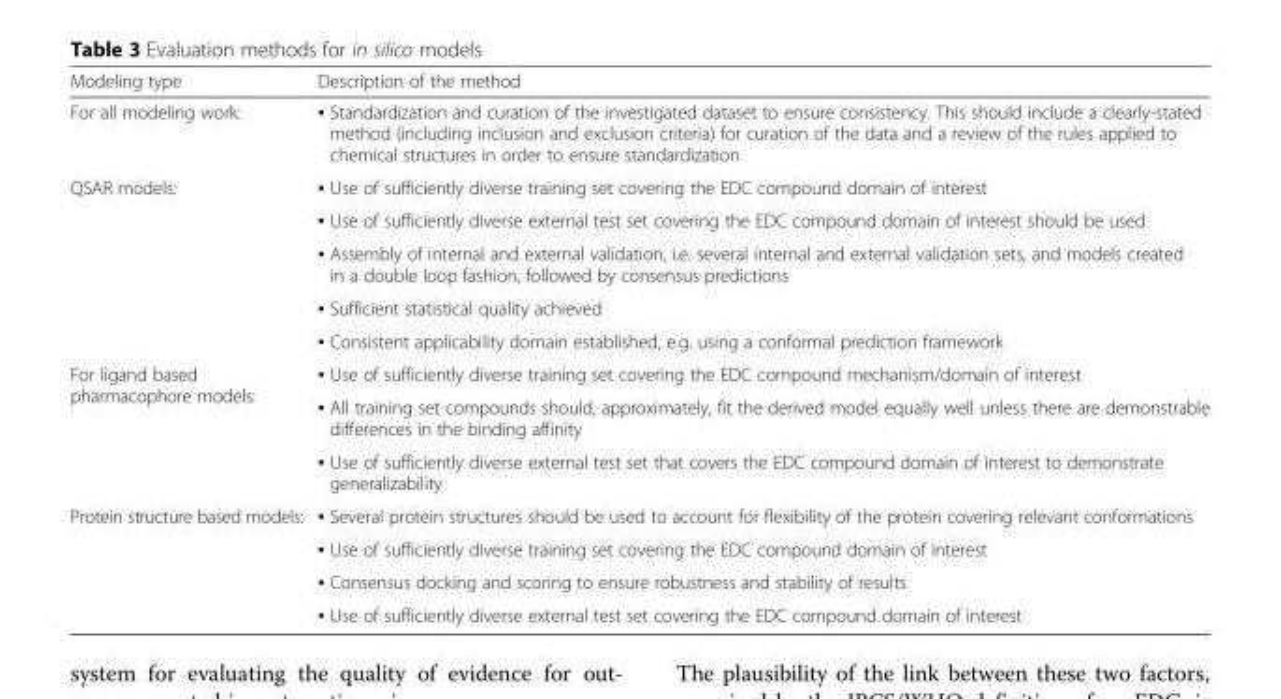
<table><thead><tr><td>Modeling type</td><td>Description of the method</td></tr></thead><tbody><tr><td>For all modeling work:</td><td>▪ Standardization and curation of the investigated dataset to ensure consistency. This should include a clearly-stated method (including inclusion and exclusion criteria) for curation of the data and a review of the rules applied to chemical structures in order to ensure standardization</td></tr><tr><td rowspan="5">QSAR models:</td><td>▪ Use of sufficiently diverse training set covering the EDC compound domain of interest</td></tr><tr><td>▪ Use of sufficiently diverse external test set covering the EDC compound domain of interest should be used</td></tr><tr><td>▪ Assembly of internal and external validation, i.e. several internal and external validation sets, and models created in a double loop fashion, followed by consensus predictions</td></tr><tr><td>▪ Sufficient statistical quality achieved</td></tr><tr><td>▪ Consistent applicability domain established, e.g. using a conformal prediction framework</td></tr><tr><td rowspan="3">For ligand based pharmacophore models:</td><td>▪ Use of sufficiently diverse training set covering the EDC compound mechanism/domain of interest</td></tr><tr><td>▪ All training set compounds should, approximately, fit the derived model equally well unless there are demonstrable differences in the binding affinity</td></tr><tr><td>▪ Use of sufficiently diverse external test set that covers the EDC compound domain of interest to demonstrate generalizability</td></tr><tr><td rowspan="4">Protein structure based models:</td><td>▪ Several protein structures should be used to account for flexibility of the protein covering relevant conformations</td></tr><tr><td>▪ Use of sufficiently diverse training set covering the EDC compound domain of interest</td></tr><tr><td>▪ Consensus docking and scoring to ensure robustness and stability of results</td></tr><tr><td>▪ Use of sufficiently diverse external test set covering the EDC compound domain of interest</td></tr></tbody></table>